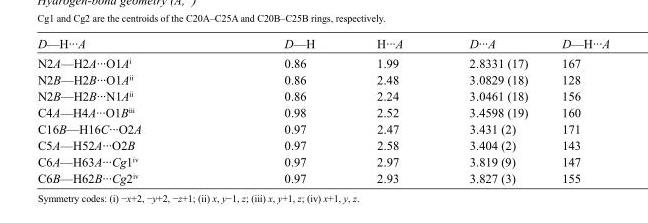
<table><tbody><tr><td>D—H···A</td><td>D—H</td><td>H···A</td><td>D···A</td><td>D—H···A</td></tr><tr><td>N2A—H2A···O1A<sup>i</sup></td><td>0.86</td><td>1.99</td><td>2.8331 (17)</td><td>167</td></tr><tr><td>N2B—H2B···O1A<sup>ii</sup></td><td>0.86</td><td>2.48</td><td>3.0829 (18)</td><td>128</td></tr><tr><td>N2B—H2B···N1A<sup>ii</sup></td><td>0.86</td><td>2.24</td><td>3.0461 (18)</td><td>156</td></tr><tr><td>C4A—H4A···O1B<sup>iii</sup></td><td>0.98</td><td>2.52</td><td>3.4598 (19)</td><td>160</td></tr><tr><td>C16B—H16C···O2A</td><td>0.97</td><td>2.47</td><td>3.431 (2)</td><td>171</td></tr><tr><td>C5A—H52A···O2B</td><td>0.97</td><td>2.58</td><td>3.404 (2)</td><td>143</td></tr><tr><td>C6A—H63A···Cg1<sup>iv</sup></td><td>0.97</td><td>2.97</td><td>3.819 (9)</td><td>147</td></tr><tr><td>C6B—H62B···Cg2<sup>iv</sup></td><td>0.97</td><td>2.93</td><td>3.827 (3)</td><td>155</td></tr></tbody></table>